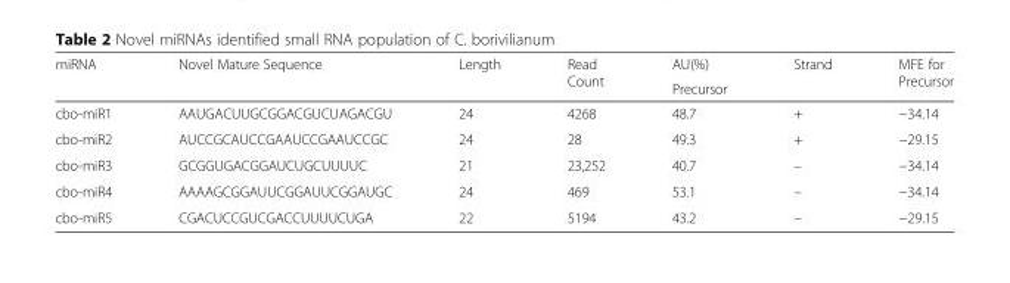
<table><thead><tr><td rowspan="2">miRNA</td><td rowspan="2">Novel Mature Sequence</td><td rowspan="2">Length</td><td rowspan="2">Read Count</td><td rowspan="2">AU(%) Precursor</td><td rowspan="2">Strand</td><td rowspan="2">MFE for Precursor</td></tr><tr></tr></thead><tbody><tr><td>cbo-miR1</td><td>AAUGACUUGCGGACGUCUAGACGU</td><td>24</td><td>4268</td><td>48.7</td><td>+</td><td>−34.14</td></tr><tr><td>cbo-miR2</td><td>AUCCGCAUCCGAAUCCGAAUCCGC</td><td>24</td><td>28</td><td>49.3</td><td>+</td><td>−29.15</td></tr><tr><td>cbo-miR3</td><td>GCGGUGACGGAUCUGCUUUUC</td><td>21</td><td>23,252</td><td>40.7</td><td>–</td><td>−34.14</td></tr><tr><td>cbo-miR4</td><td>AAAAGCGGAUUCGGAUUCGGAUGC</td><td>24</td><td>469</td><td>53.1</td><td>–</td><td>−34.14</td></tr><tr><td>cbo-miR5</td><td>CGACUCCGUCGACCUUUUCUGA</td><td>22</td><td>5194</td><td>43.2</td><td>–</td><td>−29.15</td></tr></tbody></table>